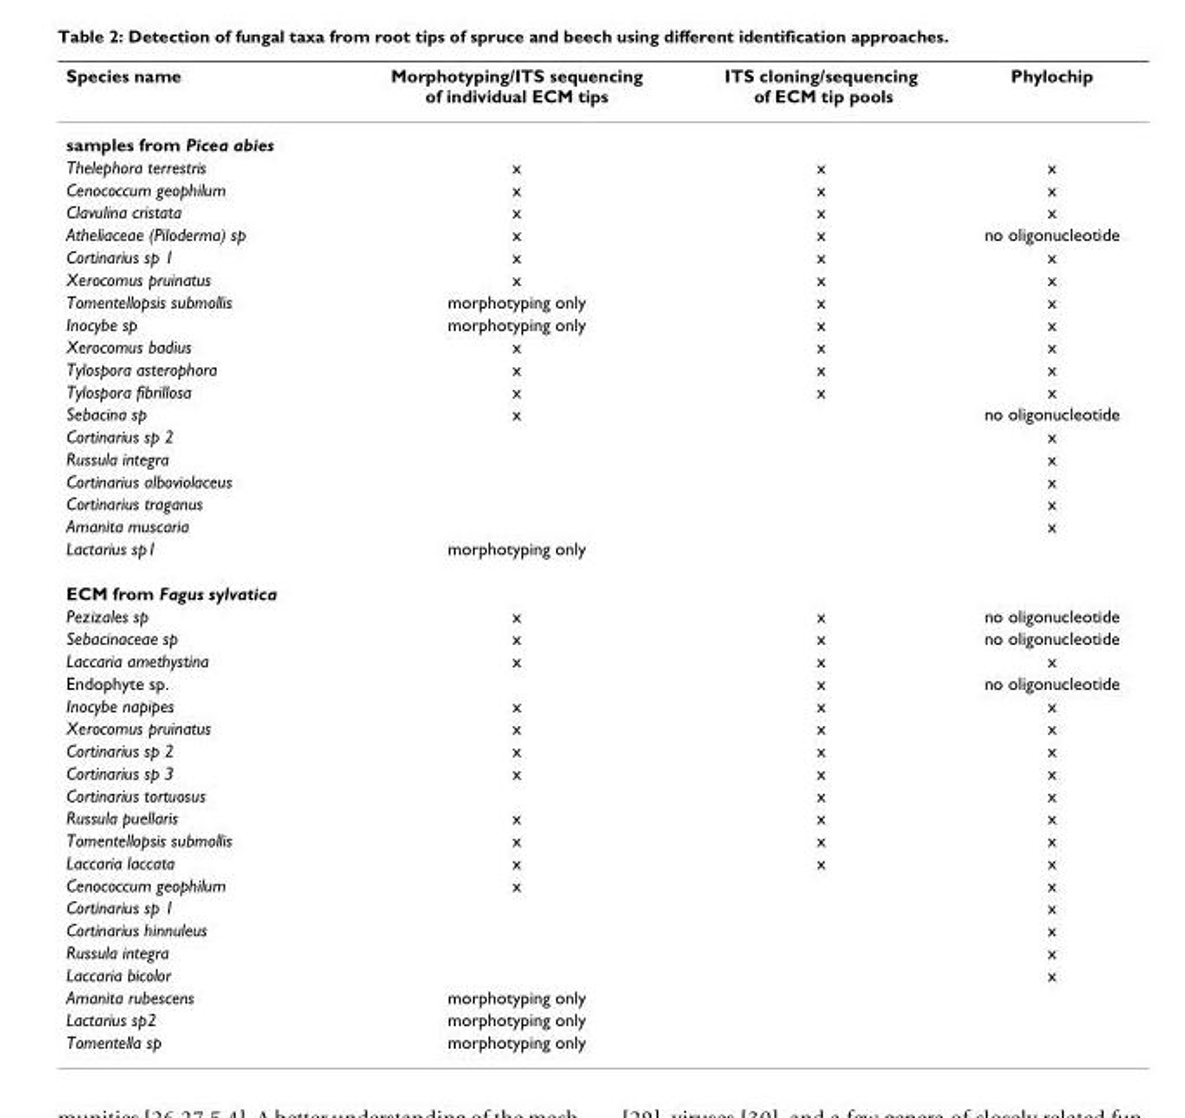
<table><thead><tr><td>Species name</td><td>Morphotyping/ITS sequencing of individual ECM tips</td><td>ITS cloning/sequencing of ECM tip pools</td><td>Phylochip</td></tr></thead><tbody><tr><td colspan="4">samples from Picea abies</td></tr><tr><td>Thelephora terrestris</td><td>x</td><td>x</td><td>x</td></tr><tr><td>Cenococcum geophilum</td><td>x</td><td>x</td><td>x</td></tr><tr><td>Clavulina cristata</td><td>x</td><td>x</td><td>x</td></tr><tr><td>Atheliaceae (Piloderma) sp</td><td>x</td><td>x</td><td>no oligonucleotide</td></tr><tr><td>Cortinarius sp 1</td><td>x</td><td>x</td><td>x</td></tr><tr><td>Xerocomus pruinatus</td><td>x</td><td>x</td><td>x</td></tr><tr><td>Tomentellopsis submollis</td><td>morphotyping only</td><td>x</td><td>x</td></tr><tr><td>Inocybe sp</td><td>morphotyping only</td><td>x</td><td>x</td></tr><tr><td>Xerocomus badius</td><td>x</td><td>x</td><td>x</td></tr><tr><td>Tylospora asterophora</td><td>x</td><td>x</td><td>x</td></tr><tr><td>Tylospora fibrillosa</td><td>x</td><td>x</td><td>x</td></tr><tr><td>Sebacina sp</td><td>x</td><td></td><td>no oligonucleotide</td></tr><tr><td>Cortinarius sp 2</td><td></td><td></td><td>x</td></tr><tr><td>Russula integra</td><td></td><td></td><td>x</td></tr><tr><td>Cortinarius alboviolaceus</td><td></td><td></td><td>x</td></tr><tr><td>Cortinarius traganus</td><td></td><td></td><td>x</td></tr><tr><td>Amanita muscaria</td><td></td><td></td><td>x</td></tr><tr><td>Lactarius sp1</td><td>morphotyping only</td><td></td><td></td></tr><tr><td colspan="4">ECM from Fagus sylvatica</td></tr><tr><td>Pezizales sp</td><td>x</td><td>x</td><td>no oligonucleotide</td></tr><tr><td>Sebacinaceae sp</td><td>x</td><td>x</td><td>no oligonucleotide</td></tr><tr><td>Laccaria amethystina</td><td>x</td><td>x</td><td>x</td></tr><tr><td>Endophyte sp.</td><td></td><td>x</td><td>no oligonucleotide</td></tr><tr><td>Inocybe napipes</td><td>x</td><td>x</td><td>x</td></tr><tr><td>Xerocomus pruinatus</td><td>x</td><td>x</td><td>x</td></tr><tr><td>Cortinarius sp 2</td><td>x</td><td>x</td><td>x</td></tr><tr><td>Cortinarius sp 3</td><td>x</td><td>x</td><td>x</td></tr><tr><td>Cortinarius tortuosus</td><td></td><td>x</td><td>x</td></tr><tr><td>Russula puellaris</td><td>x</td><td>x</td><td>x</td></tr><tr><td>Tomentellopsis submollis</td><td>x</td><td>x</td><td>x</td></tr><tr><td>Laccaria laccata</td><td>x</td><td>x</td><td>x</td></tr><tr><td>Cenococcum geophilum</td><td>x</td><td></td><td>x</td></tr><tr><td>Cortinarius sp 1</td><td></td><td></td><td>x</td></tr><tr><td>Cortinarius hinnuleus</td><td></td><td></td><td>x</td></tr><tr><td>Russula integra</td><td></td><td></td><td>x</td></tr><tr><td>Laccaria bicolor</td><td></td><td></td><td>x</td></tr><tr><td>Amanita rubescens</td><td>morphotyping only</td><td></td><td></td></tr><tr><td>Lactarius sp2</td><td>morphotyping only</td><td></td><td></td></tr><tr><td>Tomentella sp</td><td>morphotyping only</td><td></td><td></td></tr></tbody></table>